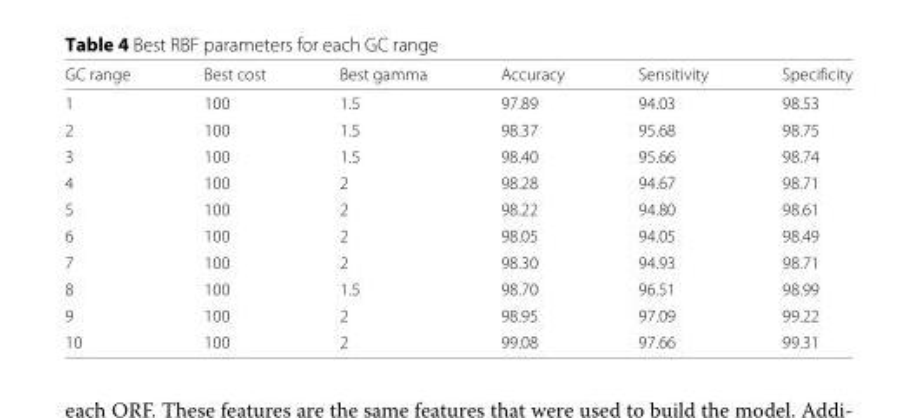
<table><thead><tr><td>GC range</td><td>Best cost</td><td>Best gamma</td><td>Accuracy</td><td>Sensitivity</td><td>Specificity</td></tr></thead><tbody><tr><td>1</td><td>100</td><td>1.5</td><td>97.89</td><td>94.03</td><td>98.53</td></tr><tr><td>2</td><td>100</td><td>1.5</td><td>98.37</td><td>95.68</td><td>98.75</td></tr><tr><td>3</td><td>100</td><td>1.5</td><td>98.40</td><td>95.66</td><td>98.74</td></tr><tr><td>4</td><td>100</td><td>2</td><td>98.28</td><td>94.67</td><td>98.71</td></tr><tr><td>5</td><td>100</td><td>2</td><td>98.22</td><td>94.80</td><td>98.61</td></tr><tr><td>6</td><td>100</td><td>2</td><td>98.05</td><td>94.05</td><td>98.49</td></tr><tr><td>7</td><td>100</td><td>2</td><td>98.30</td><td>94.93</td><td>98.71</td></tr><tr><td>8</td><td>100</td><td>1.5</td><td>98.70</td><td>96.51</td><td>98.99</td></tr><tr><td>9</td><td>100</td><td>2</td><td>98.95</td><td>97.09</td><td>99.22</td></tr><tr><td>10</td><td>100</td><td>2</td><td>99.08</td><td>97.66</td><td>99.31</td></tr></tbody></table>